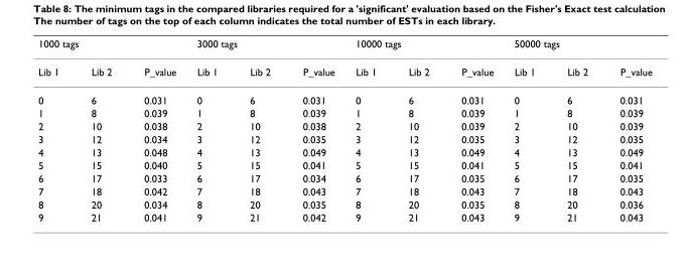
<table><thead><tr><td colspan="3">1000 tags</td><td colspan="3">3000 tags</td><td colspan="3">10000 tags</td><td colspan="3">50000 tags</td></tr><tr><td>Lib 1</td><td>Lib 2</td><td>P_value</td><td>Lib 1</td><td>Lib 2</td><td>P_value</td><td>Lib 1</td><td>Lib 2</td><td>P_value</td><td>Lib 1</td><td>Lib 2</td><td>P_value</td></tr></thead><tbody><tr><td>0</td><td>6</td><td>0.031</td><td>0</td><td>6</td><td>0.031</td><td>0</td><td>6</td><td>0.031</td><td>0</td><td>6</td><td>0.031</td></tr><tr><td>1</td><td>8</td><td>0.039</td><td>1</td><td>8</td><td>0.039</td><td>1</td><td>8</td><td>0.039</td><td>1</td><td>8</td><td>0.039</td></tr><tr><td>2</td><td>10</td><td>0.038</td><td>2</td><td>10</td><td>0.038</td><td>2</td><td>10</td><td>0.039</td><td>2</td><td>10</td><td>0.039</td></tr><tr><td>3</td><td>12</td><td>0.034</td><td>3</td><td>12</td><td>0.035</td><td>3</td><td>12</td><td>0.035</td><td>3</td><td>12</td><td>0.035</td></tr><tr><td>4</td><td>13</td><td>0.048</td><td>4</td><td>13</td><td>0.049</td><td>4</td><td>13</td><td>0.049</td><td>4</td><td>13</td><td>0.049</td></tr><tr><td>5</td><td>15</td><td>0.040</td><td>5</td><td>15</td><td>0.041</td><td>5</td><td>15</td><td>0.041</td><td>5</td><td>15</td><td>0.041</td></tr><tr><td>6</td><td>17</td><td>0.033</td><td>6</td><td>17</td><td>0.034</td><td>6</td><td>17</td><td>0.035</td><td>6</td><td>17</td><td>0.035</td></tr><tr><td>7</td><td>18</td><td>0.042</td><td>7</td><td>18</td><td>0.043</td><td>7</td><td>18</td><td>0.043</td><td>7</td><td>18</td><td>0.043</td></tr><tr><td>8</td><td>20</td><td>0.034</td><td>8</td><td>20</td><td>0.035</td><td>8</td><td>20</td><td>0.035</td><td>8</td><td>20</td><td>0.036</td></tr><tr><td>9</td><td>21</td><td>0.041</td><td>9</td><td>21</td><td>0.042</td><td>9</td><td>21</td><td>0.043</td><td>9</td><td>21</td><td>0.043</td></tr></tbody></table>